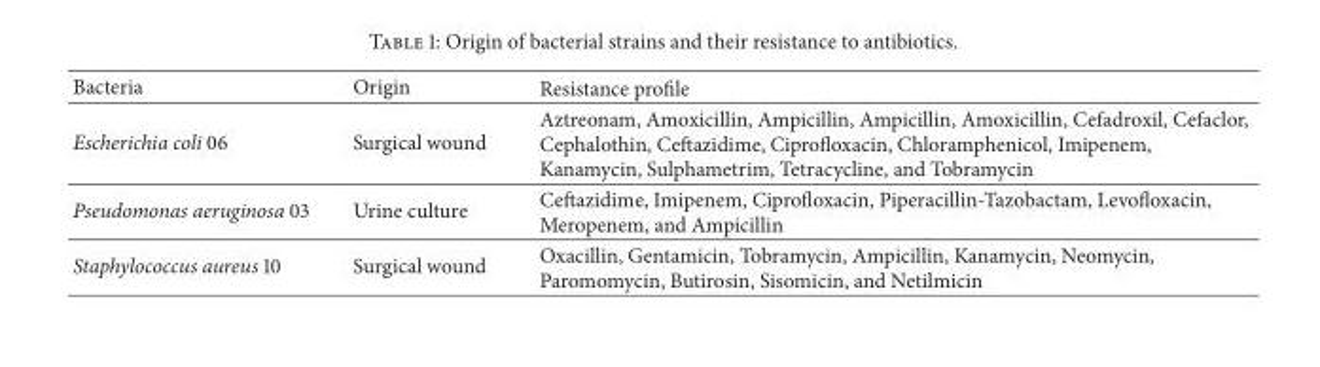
<table><thead><tr><td>Bacteria</td><td>Origin</td><td>Resistance profile</td></tr></thead><tbody><tr><td>Escherichia coli 06</td><td>Surgical wound</td><td>Aztreonam, Amoxicillin, Ampicillin, Ampicillin, Amoxicillin, Cefadroxil, Cefaclor, Cephalothin, Ceftazidime, Ciprofloxacin, Chloramphenicol, Imipenem, Kanamycin, Sulphametrim, Tetracycline, and Tobramycin</td></tr><tr><td>Pseudomonas aeruginosa 03</td><td>Urine culture</td><td>Ceftazidime, Imipenem, Ciprofloxacin, Piperacillin-Tazobactam, Levofloxacin, Meropenem, and Ampicillin</td></tr><tr><td>Staphylococcus aureus 10</td><td>Surgical wound</td><td>Oxacillin, Gentamicin, Tobramycin, Ampicillin, Kanamycin, Neomycin, Paromomycin, Butirosin, Sisomicin, and Netilmicin</td></tr></tbody></table>